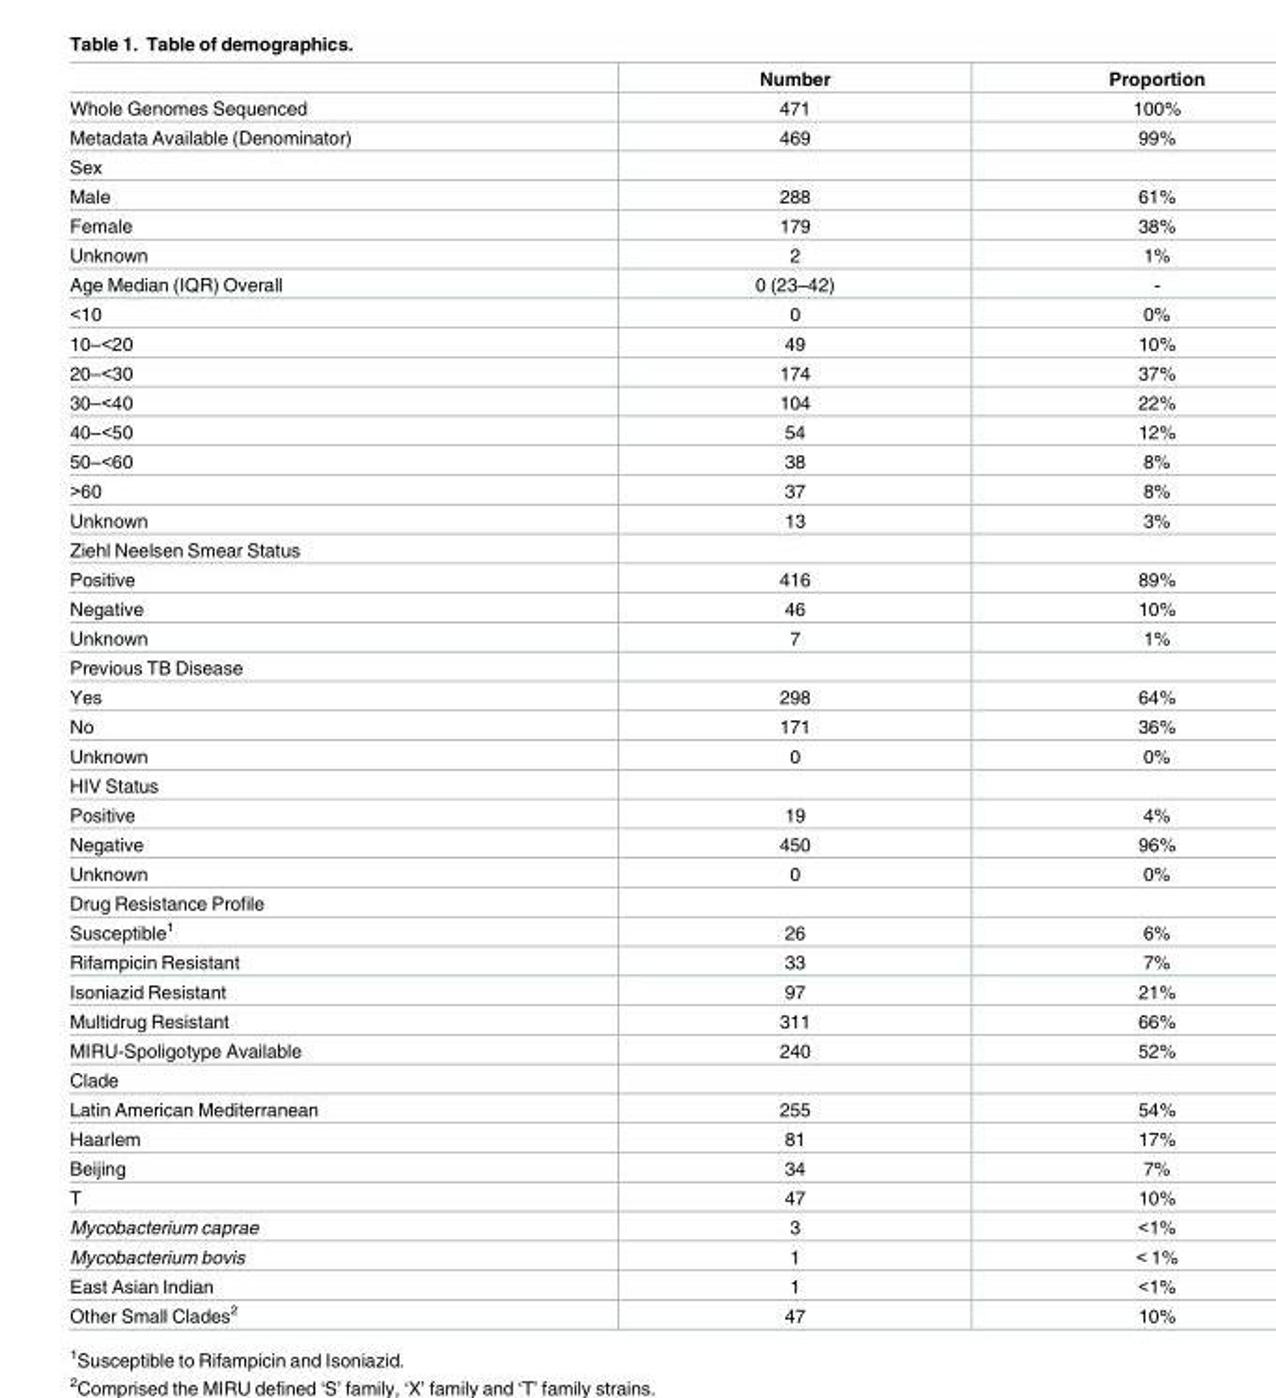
<table><thead><tr><td></td><td>Number</td><td>Proportion</td></tr></thead><tbody><tr><td>Whole Genomes Sequenced</td><td>471</td><td>100%</td></tr><tr><td>Metadata Available (Denominator)</td><td>469</td><td>99%</td></tr><tr><td colspan="3">Sex</td></tr><tr><td>Male</td><td>288</td><td>61%</td></tr><tr><td>Female</td><td>179</td><td>38%</td></tr><tr><td>Unknown</td><td>2</td><td>1%</td></tr><tr><td>Age Median (IQR) Overall</td><td>0 (23–42)</td><td>-</td></tr><tr><td>&lt;10</td><td>0</td><td>0%</td></tr><tr><td>10–&lt;20</td><td>49</td><td>10%</td></tr><tr><td>20–&lt;30</td><td>174</td><td>37%</td></tr><tr><td>30–&lt;40</td><td>104</td><td>22%</td></tr><tr><td>40–&lt;50</td><td>54</td><td>12%</td></tr><tr><td>50–&lt;60</td><td>38</td><td>8%</td></tr><tr><td>&gt;60</td><td>37</td><td>8%</td></tr><tr><td>Unknown</td><td>13</td><td>3%</td></tr><tr><td colspan="3">Ziehl Neelsen Smear Status</td></tr><tr><td>Positive</td><td>416</td><td>89%</td></tr><tr><td>Negative</td><td>46</td><td>10%</td></tr><tr><td>Unknown</td><td>7</td><td>1%</td></tr><tr><td colspan="3">Previous TB Disease</td></tr><tr><td>Yes</td><td>298</td><td>64%</td></tr><tr><td>No</td><td>171</td><td>36%</td></tr><tr><td>Unknown</td><td>0</td><td>0%</td></tr><tr><td colspan="3">HIV Status</td></tr><tr><td>Positive</td><td>19</td><td>4%</td></tr><tr><td>Negative</td><td>450</td><td>96%</td></tr><tr><td>Unknown</td><td>0</td><td>0%</td></tr><tr><td colspan="3">Drug Resistance Profile</td></tr><tr><td>Susceptible<sup>1</sup></td><td>26</td><td>6%</td></tr><tr><td>Rifampicin Resistant</td><td>33</td><td>7%</td></tr><tr><td>Isoniazid Resistant</td><td>97</td><td>21%</td></tr><tr><td>Multidrug Resistant</td><td>311</td><td>66%</td></tr><tr><td>MIRU-Spoligotype Available</td><td>240</td><td>52%</td></tr><tr><td colspan="3">Clade</td></tr><tr><td>Latin American Mediterranean</td><td>255</td><td>54%</td></tr><tr><td>Haarlem</td><td>81</td><td>17%</td></tr><tr><td>Beijing</td><td>34</td><td>7%</td></tr><tr><td>T</td><td>47</td><td>10%</td></tr><tr><td>Mycobacterium caprae</td><td>3</td><td>&lt;1%</td></tr><tr><td>Mycobacterium bovis</td><td>1</td><td>&lt; 1%</td></tr><tr><td>East Asian Indian</td><td>1</td><td>&lt;1%</td></tr><tr><td>Other Small Clades<sup>2</sup></td><td>47</td><td>10%</td></tr></tbody></table>